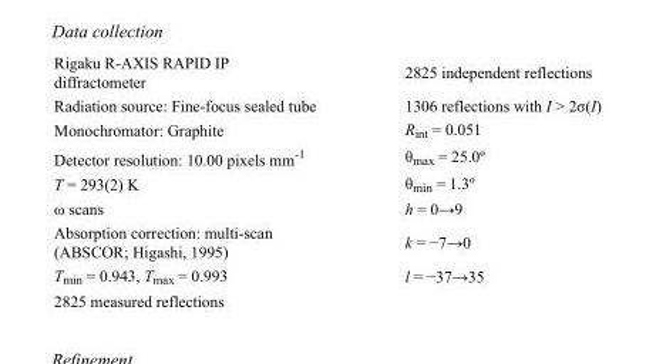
<table><tbody><tr><td>Rigaku R-AXIS RAPID IP diffractometer</td><td>2825 independent reflections</td></tr><tr><td>Radiation source: Fine-focus sealed tube</td><td>1306 reflections with I &gt; 2σ(I)</td></tr><tr><td>Monochromator: Graphite</td><td>R<sub>int</sub> = 0.051</td></tr><tr><td>Detector resolution: 10.00 pixels mm<sup>-1</sup></td><td>θ<sub>max</sub> = 25.0º</td></tr><tr><td>T = 293(2) K</td><td>θ<sub>min</sub> = 1.3º</td></tr><tr><td>ω scans</td><td>h = 0→9</td></tr><tr><td>Absorption correction: multi-scan (ABSCOR; Higashi, 1995)</td><td>k = −7→0</td></tr><tr><td>T<sub>min</sub> = 0.943, T<sub>max</sub> = 0.993</td><td>l = −37→35</td></tr><tr><td>2825 measured reflections</td><td></td></tr></tbody></table>